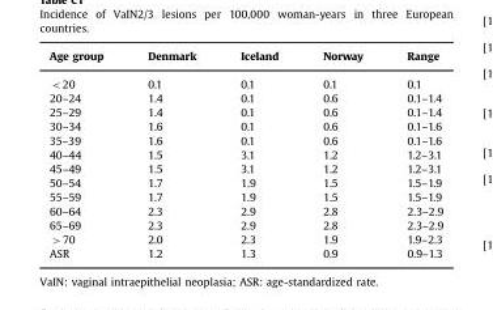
<table><thead><tr><td>Age group</td><td>Denmark</td><td>Iceland</td><td>Norway</td><td>Range</td></tr></thead><tbody><tr><td>&lt;20</td><td>0.1</td><td>0.1</td><td>0.1</td><td>0.1</td></tr><tr><td>20–24</td><td>1.4</td><td>0.1</td><td>0.6</td><td>0.1–1.4</td></tr><tr><td>25–29</td><td>1.4</td><td>0.1</td><td>0.6</td><td>0.1–1.4</td></tr><tr><td>30–34</td><td>1.6</td><td>0.1</td><td>0.6</td><td>0.1–1.6</td></tr><tr><td>35–39</td><td>1.6</td><td>0.1</td><td>0.6</td><td>0.1–1.6</td></tr><tr><td>40–44</td><td>1.5</td><td>3.1</td><td>1.2</td><td>1.2–3.1</td></tr><tr><td>45–49</td><td>1.5</td><td>3.1</td><td>1.2</td><td>1.2–3.1</td></tr><tr><td>50–54</td><td>1.7</td><td>1.9</td><td>1.5</td><td>1.5–1.9</td></tr><tr><td>55–59</td><td>1.7</td><td>1.9</td><td>1.5</td><td>1.5–1.9</td></tr><tr><td>60–64</td><td>2.3</td><td>2.9</td><td>2.8</td><td>2.3–2.9</td></tr><tr><td>65–69</td><td>2.3</td><td>2.9</td><td>2.8</td><td>2.3–2.9</td></tr><tr><td>&gt;70</td><td>2.0</td><td>2.3</td><td>1.9</td><td>1.9–2.3</td></tr><tr><td>ASR</td><td>1.2</td><td>1.3</td><td>0.9</td><td>0.9–1.3</td></tr></tbody></table>